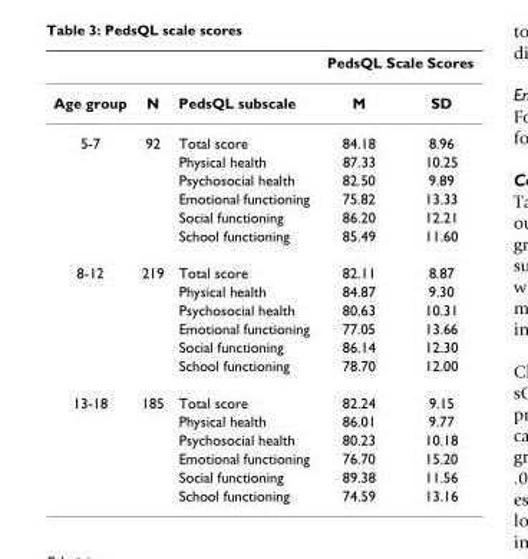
<table><thead><tr><td rowspan="2">Age group</td><td rowspan="2">N</td><td rowspan="2">PedsQL subscale</td><td colspan="2">PedsQL Scale Scores</td></tr><tr><td>M</td><td>SD</td></tr></thead><tbody><tr><td rowspan="6">5-7</td><td>92</td><td>Total score</td><td>84.18</td><td>8.96</td></tr><tr><td></td><td>Physical health</td><td>87.33</td><td>10.25</td></tr><tr><td></td><td>Psychosocial health</td><td>82.50</td><td>9.89</td></tr><tr><td></td><td>Emotional functioning</td><td>75.82</td><td>13.33</td></tr><tr><td></td><td>Social functioning</td><td>86.20</td><td>12.21</td></tr><tr><td></td><td>School functioning</td><td>85.49</td><td>11.60</td></tr><tr><td rowspan="6">8-12</td><td>219</td><td>Total score</td><td>82.11</td><td>8.87</td></tr><tr><td></td><td>Physical health</td><td>84.87</td><td>9.30</td></tr><tr><td></td><td>Psychosocial health</td><td>80.63</td><td>10.31</td></tr><tr><td></td><td>Emotional functioning</td><td>77.05</td><td>13.66</td></tr><tr><td></td><td>Social functioning</td><td>86.14</td><td>12.30</td></tr><tr><td></td><td>School functioning</td><td>78.70</td><td>12.00</td></tr><tr><td rowspan="6">13-18</td><td>185</td><td>Total score</td><td>82.24</td><td>9.15</td></tr><tr><td></td><td>Physical health</td><td>86.01</td><td>9.77</td></tr><tr><td></td><td>Psychosocial health</td><td>80.23</td><td>10.18</td></tr><tr><td></td><td>Emotional functioning</td><td>76.70</td><td>15.20</td></tr><tr><td></td><td>Social functioning</td><td>89.38</td><td>11.56</td></tr><tr><td></td><td>School functioning</td><td>74.59</td><td>13.16</td></tr></tbody></table>